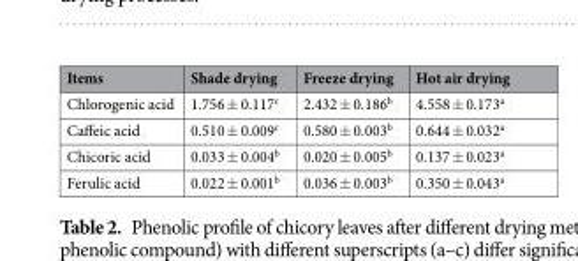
<table><thead><tr><td>Items</td><td>Shade drying</td><td>Freeze drying</td><td>Hot air drying</td></tr></thead><tbody><tr><td>Chlorogenic acid</td><td>1.756 ± 0.117<sup>c</sup></td><td>2.432 ± 0.186<sup>b</sup></td><td>4.558 ± 0.173<sup>a</sup></td></tr><tr><td>Caffeic acid</td><td>0.510 ± 0.009<sup>c</sup></td><td>0.580 ± 0.003<sup>b</sup></td><td>0.644 ± 0.032<sup>a</sup></td></tr><tr><td>Chicoric acid</td><td>0.033 ± 0.004<sup>b</sup></td><td>0.020 ± 0.005<sup>b</sup></td><td>0.137 ± 0.023<sup>a</sup></td></tr><tr><td>Ferulic acid</td><td>0.022 ± 0.001<sup>b</sup></td><td>0.036 ± 0.003<sup>b</sup></td><td>0.350 ± 0.043<sup>a</sup></td></tr></tbody></table>